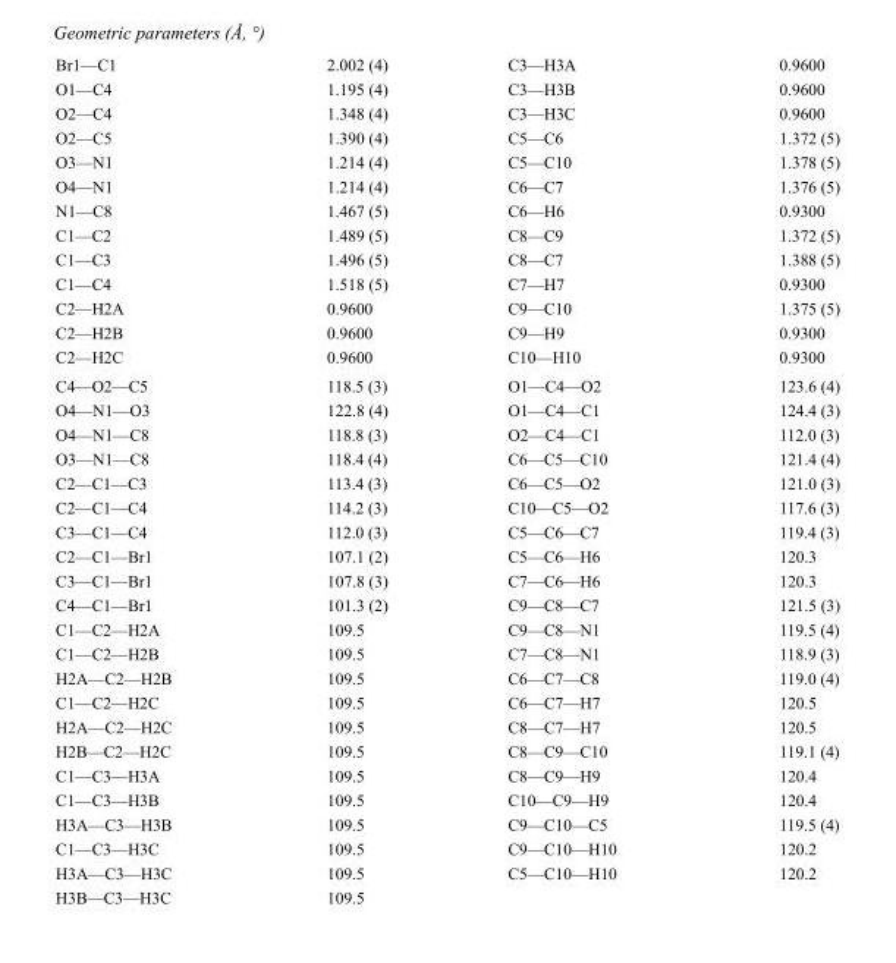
<table><tbody><tr><td>Br1—C1</td><td>2.002 (4)</td><td>C3—H3A</td><td>0.9600</td></tr><tr><td>O1—C4</td><td>1.195 (4)</td><td>C3—H3B</td><td>0.9600</td></tr><tr><td>O2—C4</td><td>1.348 (4)</td><td>C3—H3C</td><td>0.9600</td></tr><tr><td>O2—C5</td><td>1.390 (4)</td><td>C5—C6</td><td>1.372 (5)</td></tr><tr><td>O3—N1</td><td>1.214 (4)</td><td>C5—C10</td><td>1.378 (5)</td></tr><tr><td>O4—N1</td><td>1.214 (4)</td><td>C6—C7</td><td>1.376 (5)</td></tr><tr><td>N1—C8</td><td>1.467 (5)</td><td>C6—H6</td><td>0.9300</td></tr><tr><td>C1—C2</td><td>1.489 (5)</td><td>C8—C9</td><td>1.372 (5)</td></tr><tr><td>C1—C3</td><td>1.496 (5)</td><td>C8—C7</td><td>1.388 (5)</td></tr><tr><td>C1—C4</td><td>1.518 (5)</td><td>C7—H7</td><td>0.9300</td></tr><tr><td>C2—H2A</td><td>0.9600</td><td>C9—C10</td><td>1.375 (5)</td></tr><tr><td>C2—H2B</td><td>0.9600</td><td>C9—H9</td><td>0.9300</td></tr><tr><td>C2—H2C</td><td>0.9600</td><td>C10—H10</td><td>0.9300</td></tr><tr><td>C4—O2—C5</td><td>118.5 (3)</td><td>O1—C4—O2</td><td>123.6 (4)</td></tr><tr><td>O4—N1—O3</td><td>122.8 (4)</td><td>O1—C4—C1</td><td>124.4 (3)</td></tr><tr><td>O4—N1—C8</td><td>118.8 (3)</td><td>O2—C4—C1</td><td>112.0 (3)</td></tr><tr><td>O3—N1—C8</td><td>118.4 (4)</td><td>C6—C5—C10</td><td>121.4 (4)</td></tr><tr><td>C2—C1—C3</td><td>113.4 (3)</td><td>C6—C5—O2</td><td>121.0 (3)</td></tr><tr><td>C2—C1—C4</td><td>114.2 (3)</td><td>C10—C5—O2</td><td>117.6 (3)</td></tr><tr><td>C3—C1—C4</td><td>112.0 (3)</td><td>C5—C6—C7</td><td>119.4 (3)</td></tr><tr><td>C2—C1—Br1</td><td>107.1 (2)</td><td>C5—C6—H6</td><td>120.3</td></tr><tr><td>C3—C1—Br1</td><td>107.8 (3)</td><td>C7—C6—H6</td><td>120.3</td></tr><tr><td>C4—C1—Br1</td><td>101.3 (2)</td><td>C9—C8—C7</td><td>121.5 (3)</td></tr><tr><td>C1—C2—H2A</td><td>109.5</td><td>C9—C8—N1</td><td>119.5 (4)</td></tr><tr><td>C1—C2—H2B</td><td>109.5</td><td>C7—C8—N1</td><td>118.9 (3)</td></tr><tr><td>H2A—C2—H2B</td><td>109.5</td><td>C6—C7—C8</td><td>119.0 (4)</td></tr><tr><td>C1—C2—H2C</td><td>109.5</td><td>C6—C7—H7</td><td>120.5</td></tr><tr><td>H2A—C2—H2C</td><td>109.5</td><td>C8—C7—H7</td><td>120.5</td></tr><tr><td>H2B—C2—H2C</td><td>109.5</td><td>C8—C9—C10</td><td>119.1 (4)</td></tr><tr><td>C1—C3—H3A</td><td>109.5</td><td>C8—C9—H9</td><td>120.4</td></tr><tr><td>C1—C3—H3B</td><td>109.5</td><td>C10—C9—H9</td><td>120.4</td></tr><tr><td>H3A—C3—H3B</td><td>109.5</td><td>C9—C10—C5</td><td>119.5 (4)</td></tr><tr><td>C1—C3—H3C</td><td>109.5</td><td>C9—C10—H10</td><td>120.2</td></tr><tr><td>H3A—C3—H3C</td><td>109.5</td><td>C5—C10—H10</td><td>120.2</td></tr><tr><td>H3B—C3—H3C</td><td>109.5</td><td></td><td></td></tr></tbody></table>